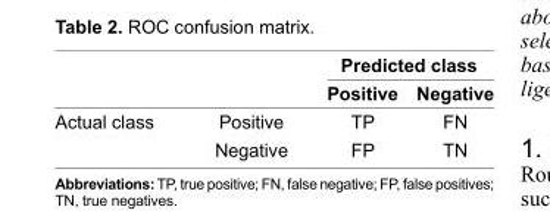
<table><thead><tr><td rowspan="2"></td><td rowspan="2"></td><td colspan="2">Predicted class</td></tr><tr><td>Positive</td><td>Negative</td></tr></thead><tbody><tr><td rowspan="2">Actual class</td><td>Positive</td><td>TP</td><td>FN</td></tr><tr><td>Negative</td><td>FP</td><td>TN</td></tr></tbody></table>